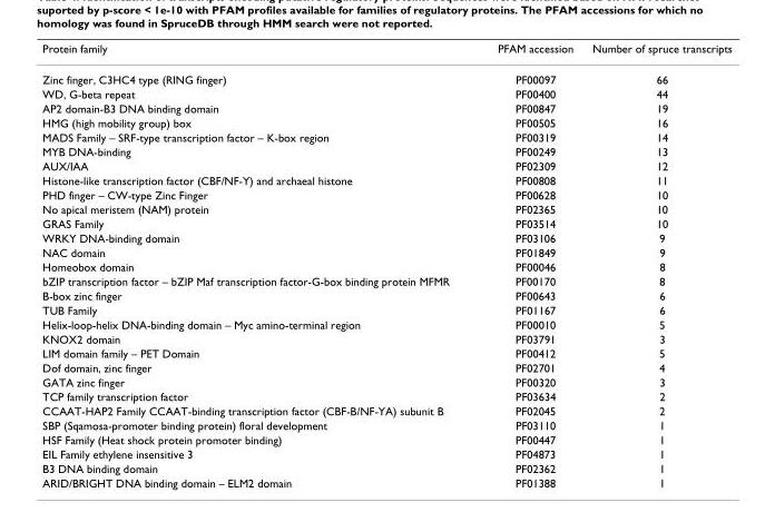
<table><thead><tr><td>Protein family</td><td>PFAM accession</td><td>Number of spruce transcripts</td></tr></thead><tbody><tr><td>Zinc finger, C3HC4 type (RING finger)</td><td>PF00097</td><td>66</td></tr><tr><td>WD, G-beta repeat</td><td>PF00400</td><td>44</td></tr><tr><td>AP2 domain-B3 DNA binding domain</td><td>PF00847</td><td>19</td></tr><tr><td>HMG (high mobility group) box</td><td>PF00505</td><td>16</td></tr><tr><td>MADS Family – SRF-type transcription factor – K-box region</td><td>PF00319</td><td>14</td></tr><tr><td>MYB DNA-binding</td><td>PF00249</td><td>13</td></tr><tr><td>AUX/IAA</td><td>PF02309</td><td>12</td></tr><tr><td>Histone-like transcription factor (CBF/NF-Y) and archaeal histone</td><td>PF00808</td><td>11</td></tr><tr><td>PHD finger – CW-type Zinc Finger</td><td>PF00628</td><td>10</td></tr><tr><td>No apical meristem (NAM) protein</td><td>PF02365</td><td>10</td></tr><tr><td>GRAS Family</td><td>PF03514</td><td>10</td></tr><tr><td>WRKY DNA-binding domain</td><td>PF03106</td><td>9</td></tr><tr><td>NAC domain</td><td>PF01849</td><td>9</td></tr><tr><td>Homeobox domain</td><td>PF00046</td><td>8</td></tr><tr><td>bZIP transcription factor – bZIP Maf transcription factor-G-box binding protein MFMR</td><td>PF00170</td><td>8</td></tr><tr><td>B-box zinc finger</td><td>PF00643</td><td>6</td></tr><tr><td>TUB Family</td><td>PF01167</td><td>6</td></tr><tr><td>Helix-loop-helix DNA-binding domain – Myc amino-terminal region</td><td>PF00010</td><td>5</td></tr><tr><td>KNOX2 domain</td><td>PF03791</td><td>3</td></tr><tr><td>LIM domain family – PET Domain</td><td>PF00412</td><td>5</td></tr><tr><td>Dof domain, zinc finger</td><td>PF02701</td><td>4</td></tr><tr><td>GATA zinc finger</td><td>PF00320</td><td>3</td></tr><tr><td>TCP family transcription factor</td><td>PF03634</td><td>2</td></tr><tr><td>CCAAT-HAP2 Family CCAAT-binding transcription factor (CBF-B/NF-YA) subunit B</td><td>PF02045</td><td>2</td></tr><tr><td>SBP (Sqamosa-promoter binding protein) floral development</td><td>PF03110</td><td>1</td></tr><tr><td>HSF Family (Heat shock protein promoter binding)</td><td>PF00447</td><td>1</td></tr><tr><td>EIL Family ethylene insensitive 3</td><td>PF04873</td><td>1</td></tr><tr><td>B3 DNA binding domain</td><td>PF02362</td><td>1</td></tr><tr><td>ARID/BRIGHT DNA binding domain – ELM2 domain</td><td>PF01388</td><td>1</td></tr></tbody></table>